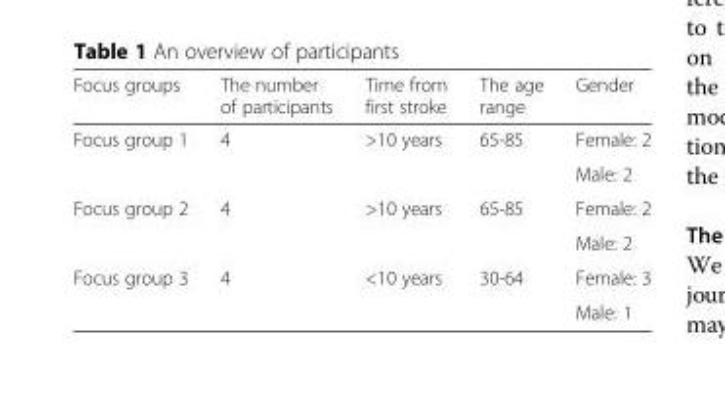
<table><thead><tr><td>Focus groups</td><td>The number of participants</td><td>Time from first stroke</td><td>The age range</td><td>Gender</td></tr></thead><tbody><tr><td rowspan="2">Focus group 1</td><td rowspan="2">4</td><td rowspan="2">&gt;10 years</td><td rowspan="2">65-85</td><td>Female: 2</td></tr><tr><td>Male: 2</td></tr><tr><td rowspan="2">Focus group 2</td><td rowspan="2">4</td><td rowspan="2">&gt;10 years</td><td rowspan="2">65-85</td><td>Female: 2</td></tr><tr><td>Male: 2</td></tr><tr><td rowspan="2">Focus group 3</td><td rowspan="2">4</td><td rowspan="2">&lt;10 years</td><td rowspan="2">30-64</td><td>Female: 3</td></tr><tr><td>Male: 1</td></tr></tbody></table>